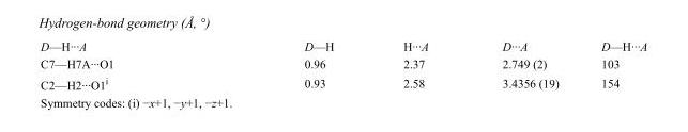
<table><tbody><tr><td>D—H···A</td><td>D—H</td><td>H···A</td><td>D···A</td><td>D—H···A</td></tr><tr><td>C7—H7A···O1</td><td>0.96</td><td>2.37</td><td>2.749 (2)</td><td>103</td></tr><tr><td>C2—H2···O1<sup>i</sup></td><td>0.93</td><td>2.58</td><td>3.4356 (19)</td><td>154</td></tr></tbody></table>